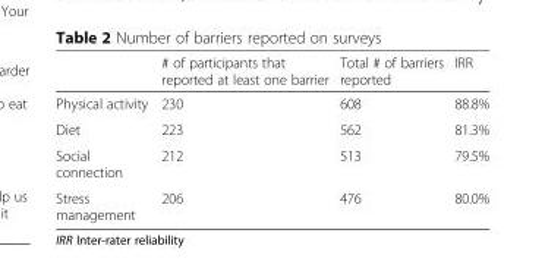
<table><thead><tr><td></td><td># of participants that reported at least one barrier</td><td>Total # of barriers reported</td><td>IRR</td></tr></thead><tbody><tr><td>Physical activity</td><td>230</td><td>608</td><td>88.8%</td></tr><tr><td>Diet</td><td>223</td><td>562</td><td>81.3%</td></tr><tr><td>Social connection</td><td>212</td><td>513</td><td>79.5%</td></tr><tr><td>Stress management</td><td>206</td><td>476</td><td>80.0%</td></tr></tbody></table>